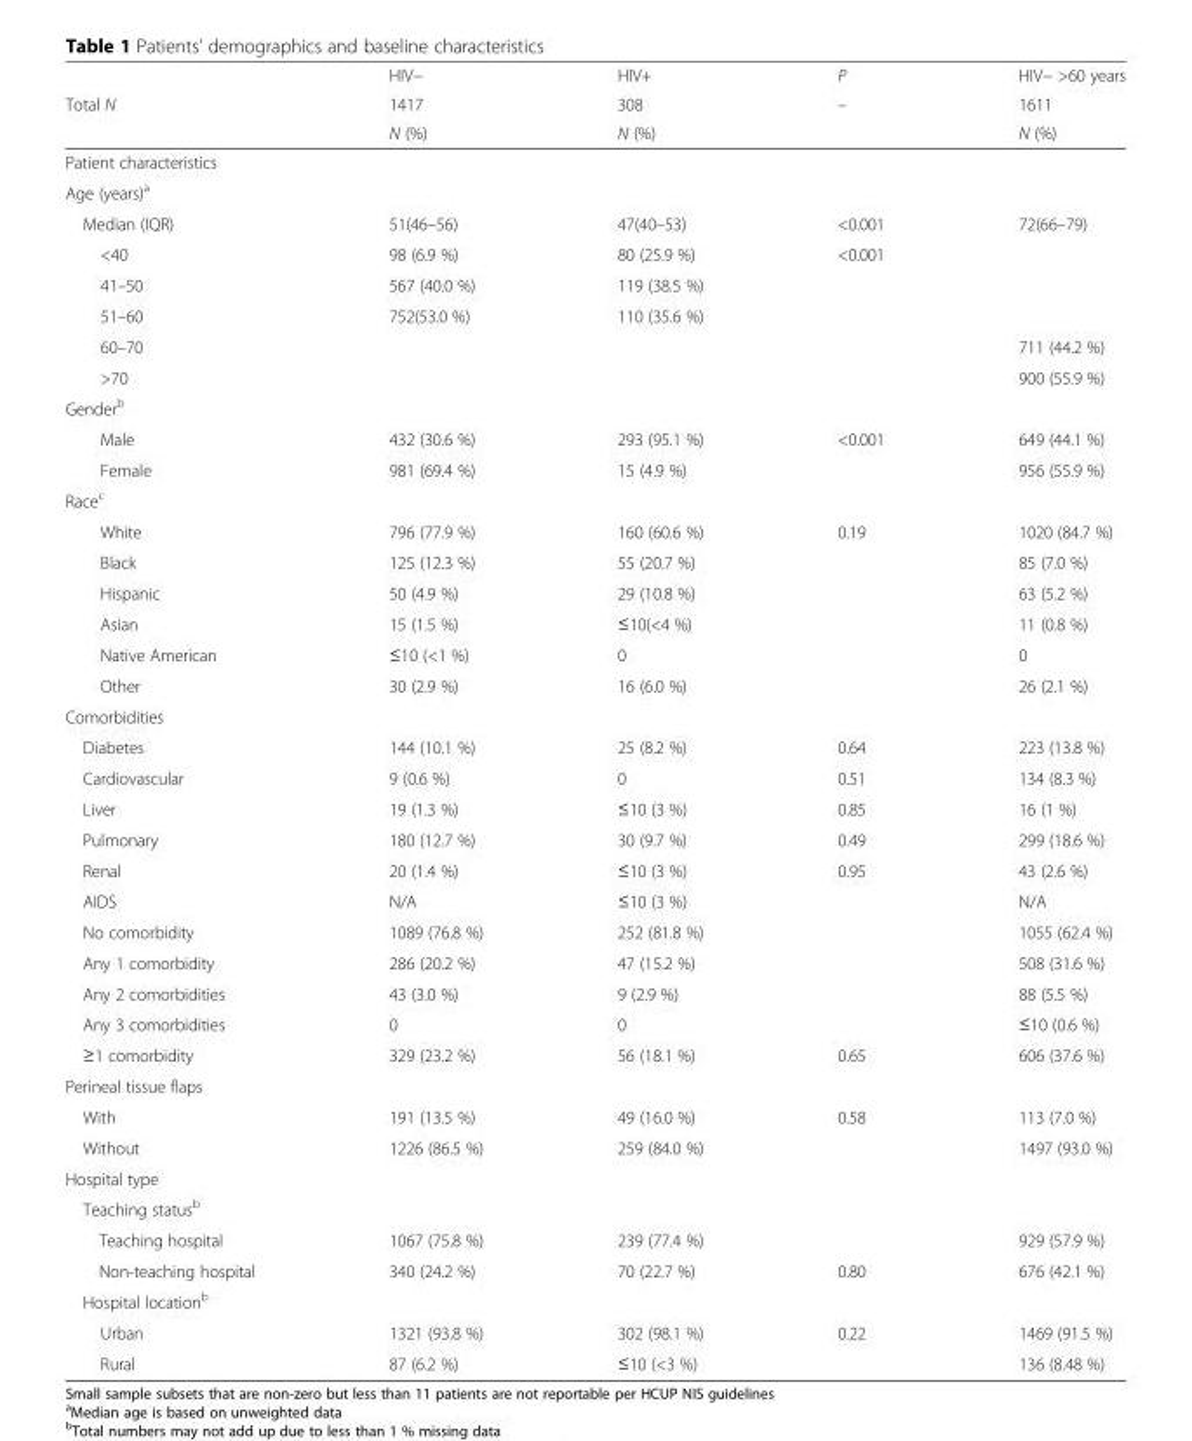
<table><thead><tr><td rowspan="3">Total N</td><td rowspan="3">HIV− 1417 N (%)</td><td rowspan="3">HIV+ 308 N (%)</td><td rowspan="3">P –</td><td rowspan="3">HIV− &gt;60 years 1611 N (%)</td></tr><tr></tr><tr></tr></thead><tbody><tr><td colspan="5">Patient characteristics</td></tr><tr><td colspan="5">Age (years)<sup>a</sup></td></tr><tr><td>Median (IQR)</td><td>51(46–56)</td><td>47(40–53)</td><td>&lt;0.001</td><td>72(66–79)</td></tr><tr><td>&lt;40</td><td>98 (6.9 %)</td><td>80 (25.9 %)</td><td>&lt;0.001</td><td></td></tr><tr><td>41–50</td><td>567 (40.0 %)</td><td>119 (38.5 %)</td><td></td><td></td></tr><tr><td>51–60</td><td>752(53.0 %)</td><td>110 (35.6 %)</td><td></td><td></td></tr><tr><td>60–70</td><td></td><td></td><td></td><td>711 (44.2 %)</td></tr><tr><td>&gt;70</td><td></td><td></td><td></td><td>900 (55.9 %)</td></tr><tr><td colspan="5">Gender<sup>b</sup></td></tr><tr><td>Male</td><td>432 (30.6 %)</td><td>293 (95.1 %)</td><td>&lt;0.001</td><td>649 (44.1 %)</td></tr><tr><td>Female</td><td>981 (69.4 %)</td><td>15 (4.9 %)</td><td></td><td>956 (55.9 %)</td></tr><tr><td colspan="5">Race<sup>c</sup></td></tr><tr><td>White</td><td>796 (77.9 %)</td><td>160 (60.6 %)</td><td>0.19</td><td>1020 (84.7 %)</td></tr><tr><td>Black</td><td>125 (12.3 %)</td><td>55 (20.7 %)</td><td></td><td>85 (7.0 %)</td></tr><tr><td>Hispanic</td><td>50 (4.9 %)</td><td>29 (10.8 %)</td><td></td><td>63 (5.2 %)</td></tr><tr><td>Asian</td><td>15 (1.5 %)</td><td>≤10(&lt;4 %)</td><td></td><td>11 (0.8 %)</td></tr><tr><td>Native American</td><td>≤10 (&lt;1 %)</td><td>0</td><td></td><td>0</td></tr><tr><td>Other</td><td>30 (2.9 %)</td><td>16 (6.0 %)</td><td></td><td>26 (2.1 %)</td></tr><tr><td colspan="5">Comorbidities</td></tr><tr><td>Diabetes</td><td>144 (10.1 %)</td><td>25 (8.2 %)</td><td>0.64</td><td>223 (13.8 %)</td></tr><tr><td>Cardiovascular</td><td>9 (0.6 %)</td><td>0</td><td>0.51</td><td>134 (8.3 %)</td></tr><tr><td>Liver</td><td>19 (1.3 %)</td><td>≤10 (3 %)</td><td>0.85</td><td>16 (1 %)</td></tr><tr><td>Pulmonary</td><td>180 (12.7 %)</td><td>30 (9.7 %)</td><td>0.49</td><td>299 (18.6 %)</td></tr><tr><td>Renal</td><td>20 (1.4 %)</td><td>≤10 (3 %)</td><td>0.95</td><td>43 (2.6 %)</td></tr><tr><td>AIDS</td><td>N/A</td><td>≤10 (3 %)</td><td></td><td>N/A</td></tr><tr><td>No comorbidity</td><td>1089 (76.8 %)</td><td>252 (81.8 %)</td><td></td><td>1055 (62.4 %)</td></tr><tr><td>Any 1 comorbidity</td><td>286 (20.2 %)</td><td>47 (15.2 %)</td><td></td><td>508 (31.6 %)</td></tr><tr><td>Any 2 comorbidities</td><td>43 (3.0 %)</td><td>9 (2.9 %)</td><td></td><td>88 (5.5 %)</td></tr><tr><td>Any 3 comorbidities</td><td>0</td><td>0</td><td></td><td>≤10 (0.6 %)</td></tr><tr><td>≥1 comorbidity</td><td>329 (23.2 %)</td><td>56 (18.1 %)</td><td>0.65</td><td>606 (37.6 %)</td></tr><tr><td colspan="5">Perineal tissue flaps</td></tr><tr><td>With</td><td>191 (13.5 %)</td><td>49 (16.0 %)</td><td>0.58</td><td>113 (7.0 %)</td></tr><tr><td>Without</td><td>1226 (86.5 %)</td><td>259 (84.0 %)</td><td></td><td>1497 (93.0 %)</td></tr><tr><td colspan="5">Hospital type</td></tr><tr><td colspan="5">Teaching status<sup>b</sup></td></tr><tr><td>Teaching hospital</td><td>1067 (75.8 %)</td><td>239 (77.4 %)</td><td></td><td>929 (57.9 %)</td></tr><tr><td>Non-teaching hospital</td><td>340 (24.2 %)</td><td>70 (22.7 %)</td><td>0.80</td><td>676 (42.1 %)</td></tr><tr><td colspan="5">Hospital location<sup>b</sup></td></tr><tr><td>Urban</td><td>1321 (93.8 %)</td><td>302 (98.1 %)</td><td>0.22</td><td>1469 (91.5 %)</td></tr><tr><td>Rural</td><td>87 (6.2 %)</td><td>≤10 (&lt;3 %)</td><td></td><td>136 (8.48 %)</td></tr></tbody></table>